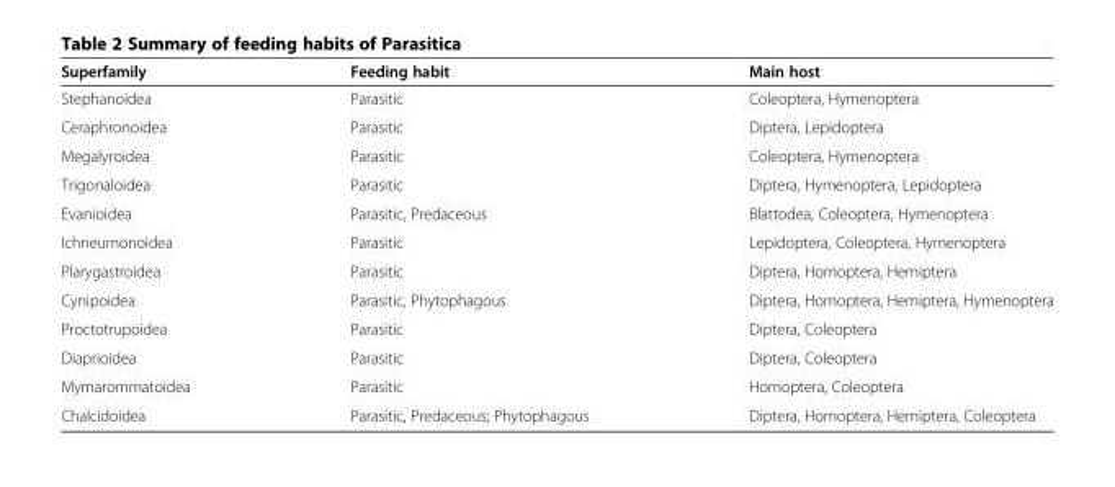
<table><thead><tr><td>Superfamily</td><td>Feeding habit</td><td>Main host</td></tr></thead><tbody><tr><td>Stephanoidea</td><td>Parasitic</td><td>Coleoptera, Hymenoptera</td></tr><tr><td>Ceraphronoidea</td><td>Parasitic</td><td>Diptera, Lepidoptera</td></tr><tr><td>Megalyroidea</td><td>Parasitic</td><td>Coleoptera, Hymenoptera</td></tr><tr><td>Trigonaloidea</td><td>Parasitic</td><td>Diptera, Hymenoptera, Lepidoptera</td></tr><tr><td>Evanioidea</td><td>Parasitic, Predaceous</td><td>Blattodea, Coleoptera, Hymenoptera</td></tr><tr><td>Ichneumonoidea</td><td>Parasitic</td><td>Lepidoptera, Coleoptera, Hymenoptera</td></tr><tr><td>Plarygastroidea</td><td>Parasitic</td><td>Diptera, Homoptera, Hemiptera</td></tr><tr><td>Cynipoidea</td><td>Parasitic, Phytophagous</td><td>Diptera, Homoptera, Hemiptera, Hymenoptera</td></tr><tr><td>Proctotrupoidea</td><td>Parasitic</td><td>Diptera, Coleoptera</td></tr><tr><td>Diaprioidea</td><td>Parasitic</td><td>Diptera, Coleoptera</td></tr><tr><td>Mymarommatoidea</td><td>Parasitic</td><td>Homoptera, Coleoptera</td></tr><tr><td>Chalcidoidea</td><td>Parasitic, Predaceous; Phytophagous</td><td>Diptera, Homoptera, Hemiptera, Coleoptera</td></tr></tbody></table>